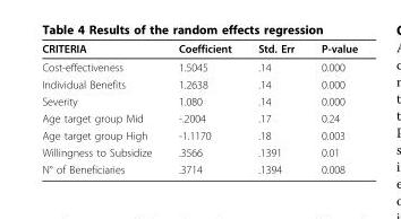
<table><thead><tr><td>CRITERIA</td><td>Coefficient</td><td>Std. Err</td><td>P-value</td></tr></thead><tbody><tr><td>Cost-effectiveness</td><td>1.5045</td><td>.14</td><td>0.000</td></tr><tr><td>Individual Benefits</td><td>1.2638</td><td>.14</td><td>0.000</td></tr><tr><td>Severity</td><td>1.080</td><td>.14</td><td>0.000</td></tr><tr><td>Age target group Mid</td><td>-.2004</td><td>.17</td><td>0.24</td></tr><tr><td>Age target group High</td><td>-1.1170</td><td>.18</td><td>0.003</td></tr><tr><td>Willingness to Subsidize</td><td>.3566</td><td>.1391</td><td>0.01</td></tr><tr><td>N° of Beneficiaries</td><td>.3714</td><td>.1394</td><td>0.008</td></tr></tbody></table>